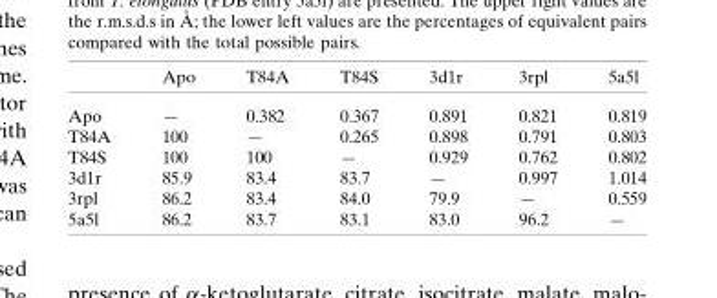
<table><thead><tr><td></td><td>Apo</td><td>T84A</td><td>T84S</td><td>3d1r</td><td>3rpl</td><td>5a5l</td></tr></thead><tbody><tr><td>Apo</td><td>—</td><td>0.382</td><td>0.367</td><td>0.891</td><td>0.821</td><td>0.819</td></tr><tr><td>T84A</td><td>100</td><td>—</td><td>0.265</td><td>0.898</td><td>0.791</td><td>0.803</td></tr><tr><td>T84S</td><td>100</td><td>100</td><td>—</td><td>0.929</td><td>0.762</td><td>0.802</td></tr><tr><td>3d1r</td><td>85.9</td><td>83.4</td><td>83.7</td><td>—</td><td>0.997</td><td>1.014</td></tr><tr><td>3rpl</td><td>86.2</td><td>83.4</td><td>84.0</td><td>79.9</td><td>—</td><td>0.559</td></tr><tr><td>5a5l</td><td>86.2</td><td>83.7</td><td>83.1</td><td>83.0</td><td>96.2</td><td>—</td></tr></tbody></table>